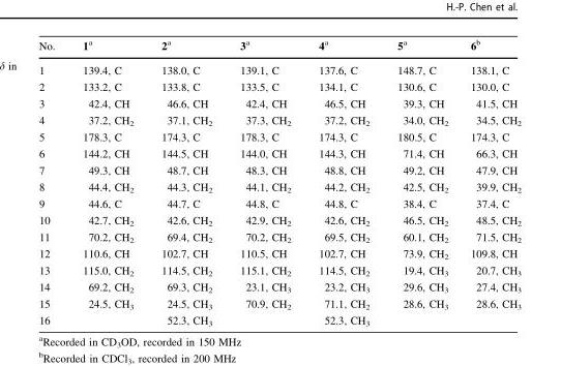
<table><thead><tr><td>No.</td><td>1<sup>a</sup></td><td>2<sup>a</sup></td><td>3<sup>a</sup></td><td>4<sup>a</sup></td><td>5<sup>a</sup></td><td>6<sup>b</sup></td></tr></thead><tbody><tr><td>1</td><td>139.4, C</td><td>138.0, C</td><td>139.1, C</td><td>137.6, C</td><td>148.7, C</td><td>138.1, C</td></tr><tr><td>2</td><td>133.2, C</td><td>133.8, C</td><td>133.5, C</td><td>134.1, C</td><td>130.6, C</td><td>130.0, C</td></tr><tr><td>3</td><td>42.4, CH</td><td>46.6, CH</td><td>42.4, CH</td><td>46.5, CH</td><td>39.3, CH</td><td>41.5, CH</td></tr><tr><td>4</td><td>37.2, CH<sub>2</sub></td><td>37.1, CH<sub>2</sub></td><td>37.3, CH<sub>2</sub></td><td>37.2, CH<sub>2</sub></td><td>34.0, CH<sub>2</sub></td><td>34.5, CH<sub>2</sub></td></tr><tr><td>5</td><td>178.3, C</td><td>174.3, C</td><td>178.3, C</td><td>174.3, C</td><td>180.5, C</td><td>174.3, C</td></tr><tr><td>6</td><td>144.2, CH</td><td>144.5, CH</td><td>144.0, CH</td><td>144.3, CH</td><td>71.4, CH</td><td>66.3, CH</td></tr><tr><td>7</td><td>49.3, CH</td><td>48.7, CH</td><td>48.3, CH</td><td>48.8, CH</td><td>49.2, CH</td><td>47.9, CH</td></tr><tr><td>8</td><td>44.4, CH<sub>2</sub></td><td>44.3, CH<sub>2</sub></td><td>44.1, CH<sub>2</sub></td><td>44.2, CH<sub>2</sub></td><td>42.5, CH<sub>2</sub></td><td>39.9, CH<sub>2</sub></td></tr><tr><td>9</td><td>44.6, C</td><td>44.7, C</td><td>44.8, C</td><td>44.8, C</td><td>38.4, C</td><td>37.4, C</td></tr><tr><td>10</td><td>42.7, CH<sub>2</sub></td><td>42.6, CH<sub>2</sub></td><td>42.9, CH<sub>2</sub></td><td>42.6, CH<sub>2</sub></td><td>46.5, CH<sub>2</sub></td><td>48.5, CH<sub>2</sub></td></tr><tr><td>11</td><td>70.2, CH<sub>2</sub></td><td>69.4, CH<sub>2</sub></td><td>70.2, CH<sub>2</sub></td><td>69.5, CH<sub>2</sub></td><td>60.1, CH<sub>2</sub></td><td>71.5, CH<sub>2</sub></td></tr><tr><td>12</td><td>110.6, CH</td><td>102.7, CH</td><td>110.5, CH</td><td>102.7, CH</td><td>73.9, CH<sub>2</sub></td><td>109.8, CH</td></tr><tr><td>13</td><td>115.0, CH<sub>2</sub></td><td>114.5, CH<sub>2</sub></td><td>115.1, CH<sub>2</sub></td><td>114.5, CH<sub>2</sub></td><td>19.4, CH<sub>3</sub></td><td>20.7, CH<sub>3</sub></td></tr><tr><td>14</td><td>69.2, CH<sub>2</sub></td><td>69.3, CH<sub>2</sub></td><td>23.1, CH<sub>3</sub></td><td>23.2, CH<sub>3</sub></td><td>29.6, CH<sub>3</sub></td><td>27.4, CH<sub>3</sub></td></tr><tr><td>15</td><td>24.5, CH<sub>3</sub></td><td>24.5, CH<sub>3</sub></td><td>70.9, CH<sub>2</sub></td><td>71.1, CH<sub>2</sub></td><td>28.6, CH<sub>3</sub></td><td>28.6, CH<sub>3</sub></td></tr><tr><td>16</td><td></td><td>52.3, CH<sub>3</sub></td><td></td><td>52.3, CH<sub>3</sub></td><td></td><td></td></tr></tbody></table>